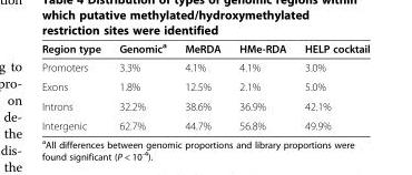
<table><thead><tr><td>Region type</td><td>Genomic<sup>a</sup></td><td>MeRDA</td><td>HMe-RDA</td><td>HELP cocktail</td></tr></thead><tbody><tr><td>Promoters</td><td>3.3%</td><td>4.1%</td><td>4.1%</td><td>3.0%</td></tr><tr><td>Exons</td><td>1.8%</td><td>12.5%</td><td>2.1%</td><td>5.0%</td></tr><tr><td>Introns</td><td>32.2%</td><td>38.6%</td><td>36.9%</td><td>42.1%</td></tr><tr><td>Intergenic</td><td>62.7%</td><td>44.7%</td><td>56.8%</td><td>49.9%</td></tr></tbody></table>